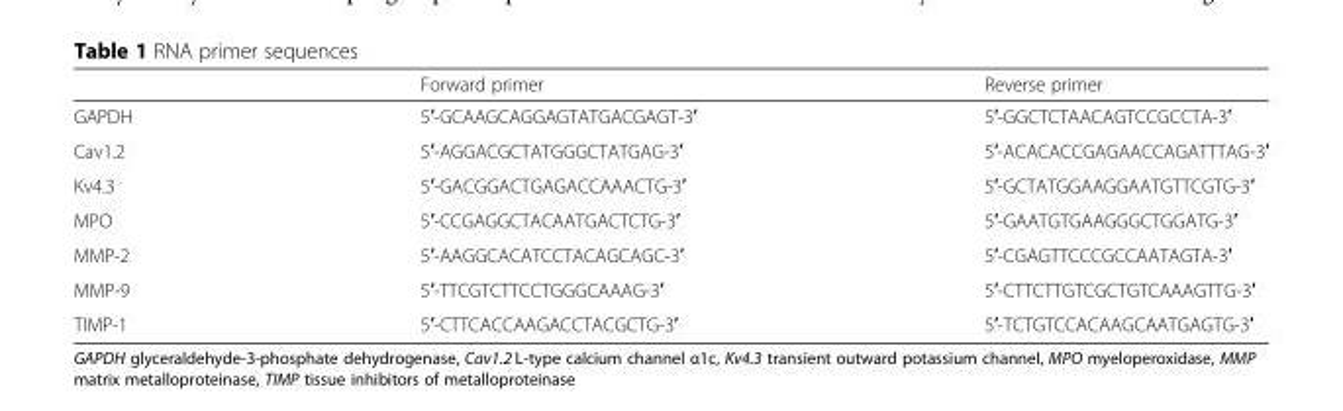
<table><thead><tr><td></td><td>Forward primer</td><td>Reverse primer</td></tr></thead><tbody><tr><td>GAPDH</td><td>5′-GCAAGCAGGAGTATGACGAGT-3′</td><td>5′-GGCTCTAACAGTCCGCCTA-3′</td></tr><tr><td>Cav1.2</td><td>5′-AGGACGCTATGGGCTATGAG-3′</td><td>5′-ACACACCGAGAACCAGATTTAG-3′</td></tr><tr><td>Kv4.3</td><td>5′-GACGGACTGAGACCAAACTG-3′</td><td>5′-GCTATGGAAGGAATGTTCGTG-3′</td></tr><tr><td>MPO</td><td>5′-CCGAGGCTACAATGACTCTG-3′</td><td>5′-GAATGTGAAGGGCTGGATG-3′</td></tr><tr><td>MMP-2</td><td>5′-AAGGCACATCCTACAGCAGC-3′</td><td>5′-CGAGTTCCCGCCAATAGTA-3′</td></tr><tr><td>MMP-9</td><td>5′-TTCGTCTTCCTGGGCAAAG-3′</td><td>5′-CTTCTTGTCGCTGTCAAAGTTG-3′</td></tr><tr><td>TIMP-1</td><td>5′-CTTCACCAAGACCTACGCTG-3′</td><td>5′-TCTGTCCACAAGCAATGAGTG-3′</td></tr></tbody></table>